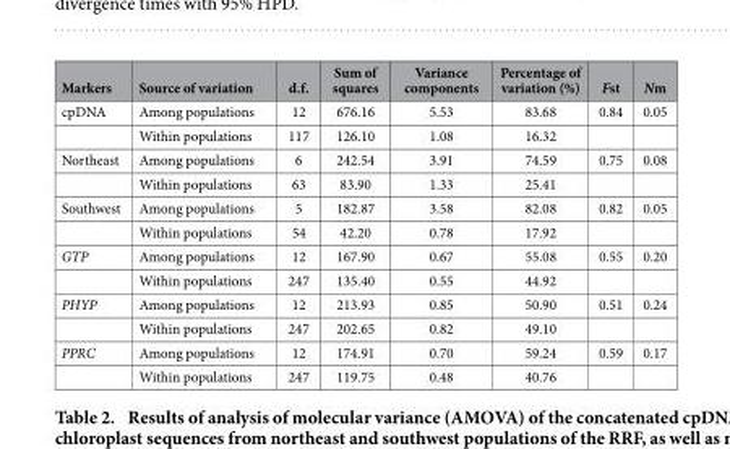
<table><thead><tr><td>Markers</td><td>Source of variation</td><td>d.f.</td><td>Sum of squares</td><td>Variance components</td><td>Percentage of variation (%)</td><td>Fst</td><td>Nm</td></tr></thead><tbody><tr><td rowspan="2">cpDNA</td><td>Among populations</td><td>12</td><td>676.16</td><td>5.53</td><td>83.68</td><td>0.84</td><td>0.05</td></tr><tr><td>Within populations</td><td>117</td><td>126.10</td><td>1.08</td><td>16.32</td><td></td><td></td></tr><tr><td rowspan="2">Northeast</td><td>Among populations</td><td>6</td><td>242.54</td><td>3.91</td><td>74.59</td><td>0.75</td><td>0.08</td></tr><tr><td>Within populations</td><td>63</td><td>83.90</td><td>1.33</td><td>25.41</td><td></td><td></td></tr><tr><td rowspan="2">Southwest</td><td>Among populations</td><td>5</td><td>182.87</td><td>3.58</td><td>82.08</td><td>0.82</td><td>0.05</td></tr><tr><td>Within populations</td><td>54</td><td>42.20</td><td>0.78</td><td>17.92</td><td></td><td></td></tr><tr><td rowspan="2">GTP</td><td>Among populations</td><td>12</td><td>167.90</td><td>0.67</td><td>55.08</td><td>0.55</td><td>0.20</td></tr><tr><td>Within populations</td><td>247</td><td>135.40</td><td>0.55</td><td>44.92</td><td></td><td></td></tr><tr><td rowspan="2">PHYP</td><td>Among populations</td><td>12</td><td>213.93</td><td>0.85</td><td>50.90</td><td>0.51</td><td>0.24</td></tr><tr><td>Within populations</td><td>247</td><td>202.65</td><td>0.82</td><td>49.10</td><td></td><td></td></tr><tr><td rowspan="2">PPRC</td><td>Among populations</td><td>12</td><td>174.91</td><td>0.70</td><td>59.24</td><td>0.59</td><td>0.17</td></tr><tr><td>Within populations</td><td>247</td><td>119.75</td><td>0.48</td><td>40.76</td><td></td><td></td></tr></tbody></table>